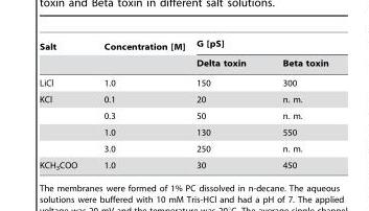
<table><thead><tr><td rowspan="2">Salt</td><td rowspan="2">Concentration [M]</td><td colspan="2">G [pS]</td></tr><tr><td>Delta toxin</td><td>Beta toxin</td></tr></thead><tbody><tr><td>LiCl</td><td>1.0</td><td>150</td><td>300</td></tr><tr><td rowspan="4">KCl</td><td>0.1</td><td>20</td><td>n. m.</td></tr><tr><td>0.3</td><td>50</td><td>n. m.</td></tr><tr><td>1.0</td><td>130</td><td>550</td></tr><tr><td>3.0</td><td>250</td><td>n. m.</td></tr><tr><td>KCH<sub>3</sub>COO</td><td>1.0</td><td>30</td><td>450</td></tr></tbody></table>